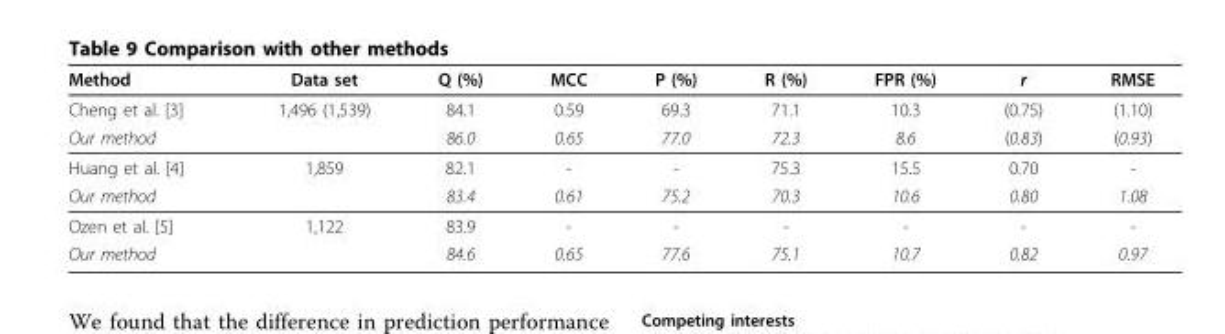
<table><thead><tr><td>Method</td><td>Data set</td><td>Q (%)</td><td>MCC</td><td>P (%)</td><td>R (%)</td><td>FPR (%)</td><td>r</td><td>RMSE</td></tr></thead><tbody><tr><td>Cheng et al. [3]</td><td>1,496 (1,539)</td><td>84.1</td><td>0.59</td><td>69.3</td><td>71.1</td><td>10.3</td><td>(0.75)</td><td>(1.10)</td></tr><tr><td>Our method</td><td></td><td>86.0</td><td>0.65</td><td>77.0</td><td>72.3</td><td>8.6</td><td>(0.83)</td><td>(0.93)</td></tr><tr><td>Huang et al. [4]</td><td>1,859</td><td>82.1</td><td>-</td><td>-</td><td>75.3</td><td>15.5</td><td>0.70</td><td>-</td></tr><tr><td>Our method</td><td></td><td>83.4</td><td>0.61</td><td>75.2</td><td>70.3</td><td>10.6</td><td>0.80</td><td>1.08</td></tr><tr><td>Ozen et al. [5]</td><td>1,122</td><td>83.9</td><td>-</td><td>-</td><td>-</td><td>-</td><td>-</td><td>-</td></tr><tr><td>Our method</td><td></td><td>84.6</td><td>0.65</td><td>77.6</td><td>75.1</td><td>10.7</td><td>0.82</td><td>0.97</td></tr></tbody></table>